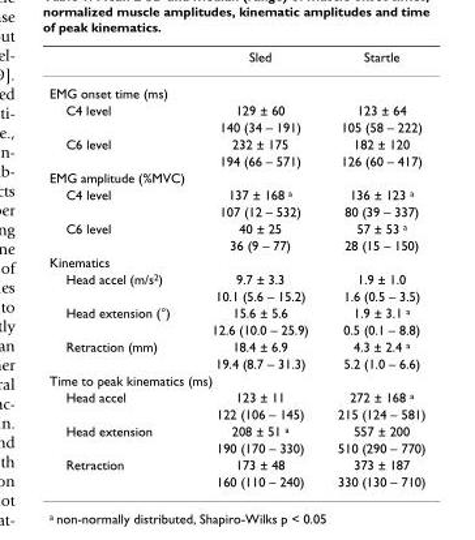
<table><thead><tr><td></td><td>Sled</td><td>Startle</td></tr></thead><tbody><tr><td colspan="3">EMG onset time (ms)</td></tr><tr><td rowspan="2">C4 level</td><td>129 ± 60</td><td>123 ± 64</td></tr><tr><td>140 (34 – 191)</td><td>105 (58 – 222)</td></tr><tr><td rowspan="2">C6 level</td><td>232 ± 175</td><td>182 ± 120</td></tr><tr><td>194 (66 – 571)</td><td>126 (60 – 417)</td></tr><tr><td colspan="3">EMG amplitude (%MVC)</td></tr><tr><td rowspan="2">C4 level</td><td>137 ± 168 <sup>a</sup></td><td>136 ± 123 <sup>a</sup></td></tr><tr><td>107 (12 – 532)</td><td>80 (39 – 337)</td></tr><tr><td rowspan="2">C6 level</td><td>40 ± 25</td><td>57 ± 53 <sup>a</sup></td></tr><tr><td>36 (9 – 77)</td><td>28 (15 – 150)</td></tr><tr><td colspan="3">Kinematics</td></tr><tr><td rowspan="2">Head accel (m/s<sup>2</sup>)</td><td>9.7 ± 3.3</td><td>1.9 ± 1.0</td></tr><tr><td>10.1 (5.6 – 15.2)</td><td>1.6 (0.5 – 3.5)</td></tr><tr><td rowspan="2">Head extension (°)</td><td>15.6 ± 5.6</td><td>1.9 ± 3.1 <sup>a</sup></td></tr><tr><td>12.6 (10.0 – 25.9)</td><td>0.5 (0.1 – 8.8)</td></tr><tr><td rowspan="2">Retraction (mm)</td><td>18.4 ± 6.9</td><td>4.3 ± 2.4 <sup>a</sup></td></tr><tr><td>19.4 (8.7 – 31.3)</td><td>5.2 (1.0 – 6.6)</td></tr><tr><td colspan="3">Time to peak kinematics (ms)</td></tr><tr><td rowspan="2">Head accel</td><td>123 ± 11</td><td>272 ± 168 <sup>a</sup></td></tr><tr><td>122 (106 – 145)</td><td>215 (124 – 581)</td></tr><tr><td rowspan="2">Head extension</td><td>208 ± 51 <sup>a</sup></td><td>557 ± 200</td></tr><tr><td>190 (170 – 330)</td><td>510 (290 – 770)</td></tr><tr><td rowspan="2">Retraction</td><td>173 ± 48</td><td>373 ± 187</td></tr><tr><td>160 (110 – 240)</td><td>330 (130 – 710)</td></tr></tbody></table>